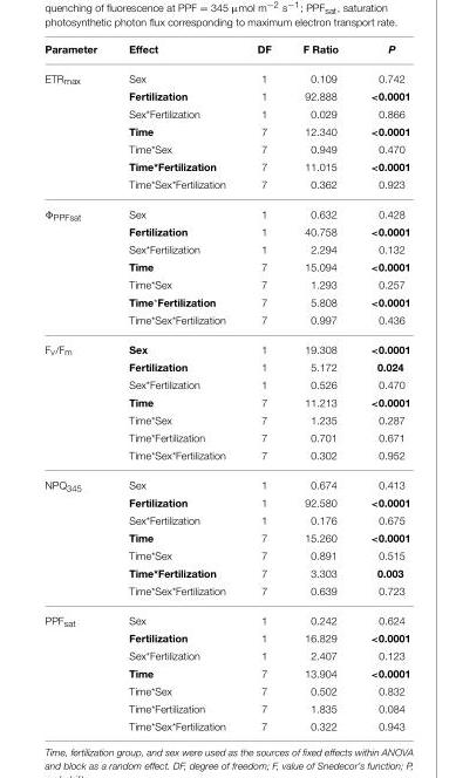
<table><thead><tr><td>Parameter</td><td>Effect</td><td>DF</td><td>F Ratio</td><td>P</td></tr></thead><tbody><tr><td rowspan="7">ETR<sub>max</sub></td><td>Sex</td><td>1</td><td>0.109</td><td>0.742</td></tr><tr><td>Fertilization</td><td>1</td><td>92.888</td><td>&lt;0.0001</td></tr><tr><td>Sex*Fertilization</td><td>1</td><td>0.029</td><td>0.866</td></tr><tr><td>Time</td><td>7</td><td>12.340</td><td>&lt;0.0001</td></tr><tr><td>Time*Sex</td><td>7</td><td>0.949</td><td>0.470</td></tr><tr><td>Time*Fertilization</td><td>7</td><td>11.015</td><td>&lt;0.0001</td></tr><tr><td>Time*Sex*Fertilization</td><td>7</td><td>0.362</td><td>0.923</td></tr><tr><td rowspan="7">Φ<sub>PPFsat</sub></td><td>Sex</td><td>1</td><td>0.632</td><td>0.428</td></tr><tr><td>Fertilization</td><td>1</td><td>40.758</td><td>&lt;0.0001</td></tr><tr><td>Sex*Fertilization</td><td>1</td><td>2.294</td><td>0.132</td></tr><tr><td>Time</td><td>7</td><td>15.094</td><td>&lt;0.0001</td></tr><tr><td>Time*Sex</td><td>7</td><td>1.293</td><td>0.257</td></tr><tr><td>Time*Fertilization</td><td>7</td><td>5.808</td><td>&lt;0.0001</td></tr><tr><td>Time*Sex*Fertilization</td><td>7</td><td>0.997</td><td>0.436</td></tr><tr><td rowspan="7">F<sub>v</sub>/F<sub>m</sub></td><td>Sex</td><td>1</td><td>19.308</td><td>&lt;0.0001</td></tr><tr><td>Fertilization</td><td>1</td><td>5.172</td><td>0.024</td></tr><tr><td>Sex*Fertilization</td><td>1</td><td>0.526</td><td>0.470</td></tr><tr><td>Time</td><td>7</td><td>11.213</td><td>&lt;0.0001</td></tr><tr><td>Time*Sex</td><td>7</td><td>1.235</td><td>0.287</td></tr><tr><td>Time*Fertilization</td><td>7</td><td>0.701</td><td>0.671</td></tr><tr><td>Time*Sex*Fertilization</td><td>7</td><td>0.302</td><td>0.952</td></tr><tr><td rowspan="7">NPQ<sub>345</sub></td><td>Sex</td><td>1</td><td>0.674</td><td>0.413</td></tr><tr><td>Fertilization</td><td>1</td><td>92.580</td><td>&lt;0.0001</td></tr><tr><td>Sex*Fertilization</td><td>1</td><td>0.176</td><td>0.675</td></tr><tr><td>Time</td><td>7</td><td>15.260</td><td>&lt;0.0001</td></tr><tr><td>Time*Sex</td><td>7</td><td>0.891</td><td>0.515</td></tr><tr><td>Time*Fertilization</td><td>7</td><td>3.303</td><td>0.003</td></tr><tr><td>Time*Sex*Fertilization</td><td>7</td><td>0.639</td><td>0.723</td></tr><tr><td rowspan="7">PPF<sub>sat</sub></td><td>Sex</td><td>1</td><td>0.242</td><td>0.624</td></tr><tr><td>Fertilization</td><td>1</td><td>16.829</td><td>&lt;0.0001</td></tr><tr><td>Sex*Fertilization</td><td>1</td><td>2.407</td><td>0.123</td></tr><tr><td>Time</td><td>7</td><td>13.904</td><td>&lt;0.0001</td></tr><tr><td>Time*Sex</td><td>7</td><td>0.502</td><td>0.832</td></tr><tr><td>Time*Fertilization</td><td>7</td><td>1.835</td><td>0.084</td></tr><tr><td>Time*Sex*Fertilization</td><td>7</td><td>0.322</td><td>0.943</td></tr></tbody></table>